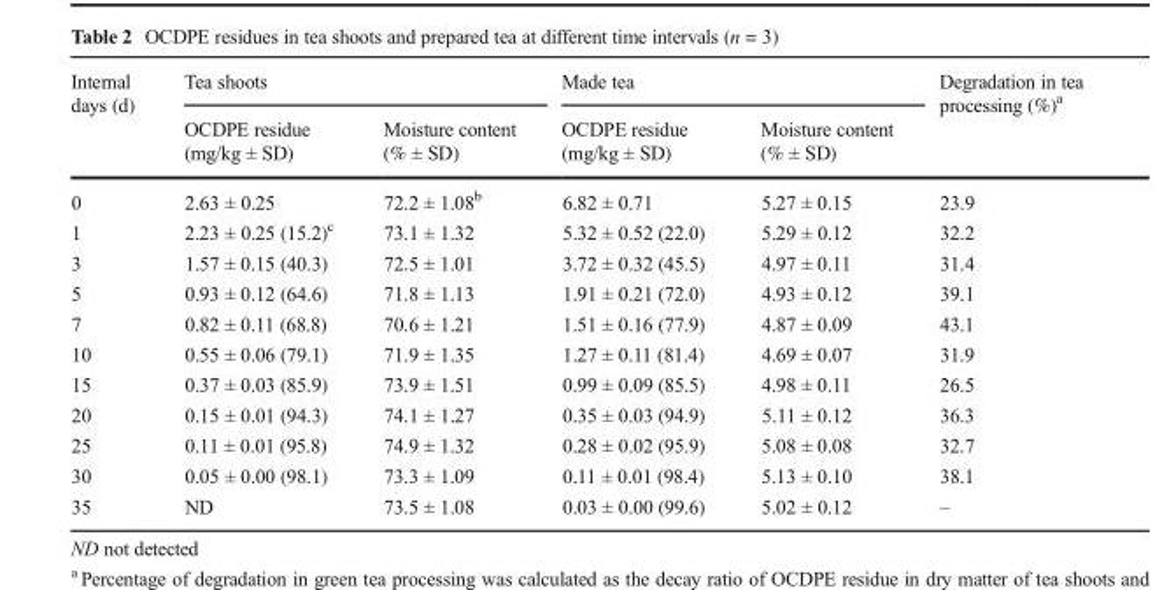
<table><thead><tr><td rowspan="2">Internal days (d)</td><td colspan="2">Tea shoots</td><td colspan="2">Made tea</td><td rowspan="2">Degradation in tea processing (%)<sup>a</sup></td></tr><tr><td>OCDPE residue (mg/kg ± SD)</td><td>Moisture content (% ± SD)</td><td>OCDPE residue (mg/kg ± SD)</td><td>Moisture content (% ± SD)</td></tr></thead><tbody><tr><td>0</td><td>2.63 ± 0.25</td><td>72.2 ± 1.08<sup>b</sup></td><td>6.82 ± 0.71</td><td>5.27 ± 0.15</td><td>23.9</td></tr><tr><td>1</td><td>2.23 ± 0.25 (15.2)<sup>c</sup></td><td>73.1 ± 1.32</td><td>5.32 ± 0.52 (22.0)</td><td>5.29 ± 0.12</td><td>32.2</td></tr><tr><td>3</td><td>1.57 ± 0.15 (40.3)</td><td>72.5 ± 1.01</td><td>3.72 ± 0.32 (45.5)</td><td>4.97 ± 0.11</td><td>31.4</td></tr><tr><td>5</td><td>0.93 ± 0.12 (64.6)</td><td>71.8 ± 1.13</td><td>1.91 ± 0.21 (72.0)</td><td>4.93 ± 0.12</td><td>39.1</td></tr><tr><td>7</td><td>0.82 ± 0.11 (68.8)</td><td>70.6 ± 1.21</td><td>1.51 ± 0.16 (77.9)</td><td>4.87 ± 0.09</td><td>43.1</td></tr><tr><td>10</td><td>0.55 ± 0.06 (79.1)</td><td>71.9 ± 1.35</td><td>1.27 ± 0.11 (81.4)</td><td>4.69 ± 0.07</td><td>31.9</td></tr><tr><td>15</td><td>0.37 ± 0.03 (85.9)</td><td>73.9 ± 1.51</td><td>0.99 ± 0.09 (85.5)</td><td>4.98 ± 0.11</td><td>26.5</td></tr><tr><td>20</td><td>0.15 ± 0.01 (94.3)</td><td>74.1 ± 1.27</td><td>0.35 ± 0.03 (94.9)</td><td>5.11 ± 0.12</td><td>36.3</td></tr><tr><td>25</td><td>0.11 ± 0.01 (95.8)</td><td>74.9 ± 1.32</td><td>0.28 ± 0.02 (95.9)</td><td>5.08 ± 0.08</td><td>32.7</td></tr><tr><td>30</td><td>0.05 ± 0.00 (98.1)</td><td>73.3 ± 1.09</td><td>0.11 ± 0.01 (98.4)</td><td>5.13 ± 0.10</td><td>38.1</td></tr><tr><td>35</td><td>ND</td><td>73.5 ± 1.08</td><td>0.03 ± 0.00 (99.6)</td><td>5.02 ± 0.12</td><td>–</td></tr></tbody></table>